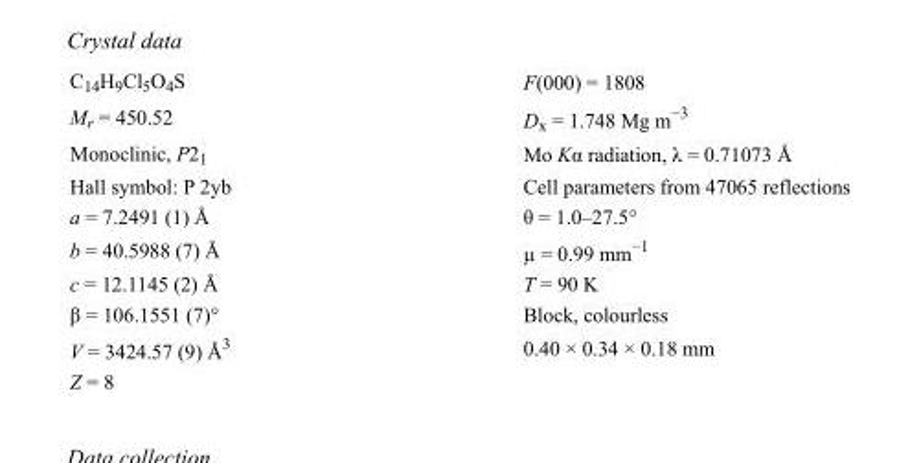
<table><tbody><tr><td>C<sub>14</sub>H<sub>9</sub>Cl<sub>5</sub>O<sub>4</sub>S</td><td>F(000) = 1808</td></tr><tr><td>M<sub>r</sub> = 450.52</td><td>D<sub>x</sub> = 1.748 Mg m<sup>−3</sup></td></tr><tr><td>Monoclinic, P2<sub>1</sub></td><td>Mo Kα radiation, λ = 0.71073 Å</td></tr><tr><td>Hall symbol: P 2yb</td><td>Cell parameters from 47065 reflections</td></tr><tr><td>a = 7.2491 (1) Å</td><td>θ = 1.0–27.5°</td></tr><tr><td>b = 40.5988 (7) Å</td><td>µ = 0.99 mm<sup>−1</sup></td></tr><tr><td>c = 12.1145 (2) Å</td><td>T = 90 K</td></tr><tr><td>β = 106.1551 (7)°</td><td>Block, colourless</td></tr><tr><td>V = 3424.57 (9) Å<sup>3</sup></td><td>0.40 × 0.34 × 0.18 mm</td></tr><tr><td>Z = 8</td><td></td></tr></tbody></table>